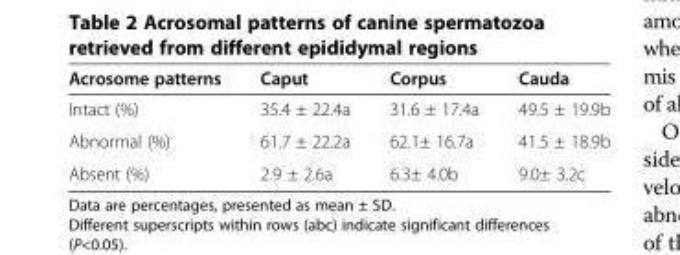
<table><thead><tr><td>Acrosome patterns</td><td>Caput</td><td>Corpus</td><td>Cauda</td></tr></thead><tbody><tr><td>Intact (%)</td><td>35.4 ± 22.4a</td><td>31.6 ± 17.4a</td><td>49.5 ± 19.9b</td></tr><tr><td>Abnormal (%)</td><td>61.7 ± 22.2a</td><td>62.1± 16.7a</td><td>41.5 ± 18.9b</td></tr><tr><td>Absent (%)</td><td>2.9 ± 2.6a</td><td>6.3± 4.0b</td><td>9.0± 3.2c</td></tr></tbody></table>